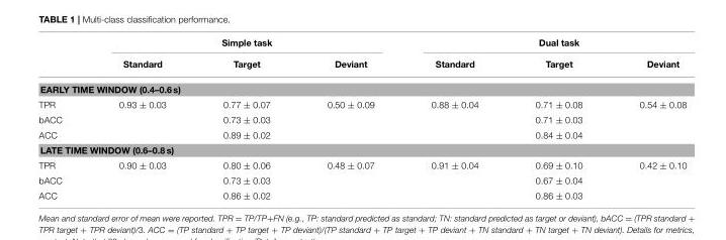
<table><thead><tr><td rowspan="2"></td><td colspan="3">Simple task</td><td colspan="3">Dual task</td></tr><tr><td>Standard</td><td>Target</td><td>Deviant</td><td>Standard</td><td>Target</td><td>Deviant</td></tr></thead><tbody><tr><td colspan="7">EARLY TIME WINDOW (0.4–0.6 s)</td></tr><tr><td>TPR</td><td>0.93 ± 0.03</td><td>0.77 ± 0.07</td><td>0.50 ± 0.09</td><td>0.88 ± 0.04</td><td>0.71 ± 0.08</td><td>0.54 ± 0.08</td></tr><tr><td>bACC</td><td colspan="3">0.73 ± 0.03</td><td colspan="3">0.71 ± 0.03</td></tr><tr><td>ACC</td><td colspan="3">0.89 ± 0.02</td><td colspan="3">0.84 ± 0.04</td></tr><tr><td colspan="7">LATE TIME WINDOW (0.6–0.8 s)</td></tr><tr><td>TPR</td><td>0.90 ± 0.03</td><td>0.80 ± 0.06</td><td>0.48 ± 0.07</td><td>0.91 ± 0.04</td><td>0.69 ± 0.10</td><td>0.42 ± 0.10</td></tr><tr><td>bACC</td><td colspan="3">0.73 ± 0.03</td><td colspan="3">0.67 ± 0.04</td></tr><tr><td>ACC</td><td colspan="3">0.86 ± 0.02</td><td colspan="3">0.86 ± 0.03</td></tr></tbody></table>